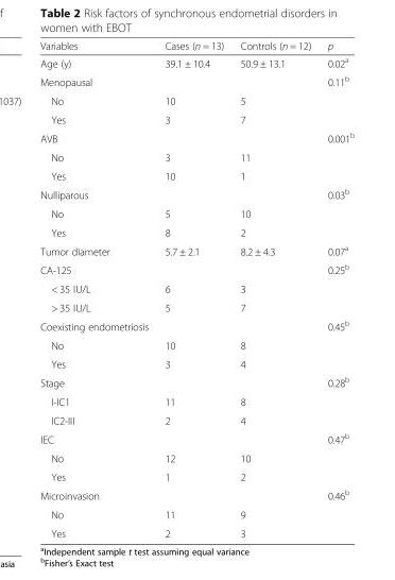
<table><thead><tr><td>Variables</td><td>Cases (n = 13)</td><td>Controls (n = 12)</td><td>p</td></tr></thead><tbody><tr><td>Age (y)</td><td>39.1 ± 10.4</td><td>50.9 ± 13.1</td><td>0.02<sup>a</sup></td></tr><tr><td>Menopausal</td><td></td><td></td><td>0.11<sup>b</sup></td></tr><tr><td>No</td><td>10</td><td>5</td><td></td></tr><tr><td>Yes</td><td>3</td><td>7</td><td></td></tr><tr><td>AVB</td><td></td><td></td><td>0.001<sup>b</sup></td></tr><tr><td>No</td><td>3</td><td>11</td><td></td></tr><tr><td>Yes</td><td>10</td><td>1</td><td></td></tr><tr><td>Nulliparous</td><td></td><td></td><td>0.03<sup>b</sup></td></tr><tr><td>No</td><td>5</td><td>10</td><td></td></tr><tr><td>Yes</td><td>8</td><td>2</td><td></td></tr><tr><td>Tumor diameter</td><td>5.7 ± 2.1</td><td>8.2 ± 4.3</td><td>0.07<sup>a</sup></td></tr><tr><td>CA-125</td><td></td><td></td><td>0.25<sup>b</sup></td></tr><tr><td>&lt; 35 IU/L</td><td>6</td><td>3</td><td></td></tr><tr><td>&gt; 35 IU/L</td><td>5</td><td>7</td><td></td></tr><tr><td>Coexisting endometriosis</td><td></td><td></td><td>0.45<sup>b</sup></td></tr><tr><td>No</td><td>10</td><td>8</td><td></td></tr><tr><td>Yes</td><td>3</td><td>4</td><td></td></tr><tr><td>Stage</td><td></td><td></td><td>0.28<sup>b</sup></td></tr><tr><td>I-IC1</td><td>11</td><td>8</td><td></td></tr><tr><td>IC2-III</td><td>2</td><td>4</td><td></td></tr><tr><td>IEC</td><td></td><td></td><td>0.47<sup>b</sup></td></tr><tr><td>No</td><td>12</td><td>10</td><td></td></tr><tr><td>Yes</td><td>1</td><td>2</td><td></td></tr><tr><td>Microinvasion</td><td></td><td></td><td>0.46<sup>b</sup></td></tr><tr><td>No</td><td>11</td><td>9</td><td></td></tr><tr><td>Yes</td><td>2</td><td>3</td><td></td></tr></tbody></table>